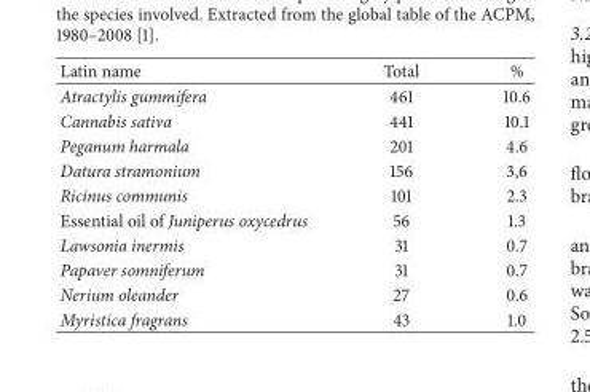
<table><thead><tr><td>Latin name</td><td>Total</td><td>%</td></tr></thead><tbody><tr><td>Atractylis gummifera</td><td>461</td><td>10.6</td></tr><tr><td>Cannabis sativa</td><td>441</td><td>10.1</td></tr><tr><td>Peganum harmala</td><td>201</td><td>4.6</td></tr><tr><td>Datura stramonium</td><td>156</td><td>3,6</td></tr><tr><td>Ricinus communis</td><td>101</td><td>2.3</td></tr><tr><td>Essential oil of Juniperus oxycedrus</td><td>56</td><td>1.3</td></tr><tr><td>Lawsonia inermis</td><td>31</td><td>0.7</td></tr><tr><td>Papaver somniferum</td><td>31</td><td>0.7</td></tr><tr><td>Nerium oleander</td><td>27</td><td>0.6</td></tr><tr><td>Myristica fragrans</td><td>43</td><td>1.0</td></tr></tbody></table>